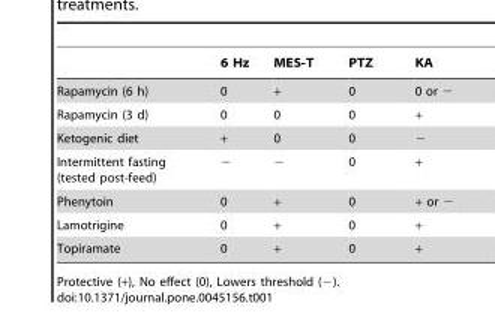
<table><thead><tr><td></td><td>6 Hz</td><td>MES-T</td><td>PTZ</td><td>KA</td></tr></thead><tbody><tr><td>Rapamycin (6 h)</td><td>0</td><td>+</td><td>0</td><td>0 or</td></tr><tr><td>Rapamycin (3 d)</td><td>0</td><td>0</td><td>0</td><td>+</td></tr><tr><td>Ketogenic diet</td><td>+</td><td>0</td><td>0</td><td>−</td></tr><tr><td>Intermittent fasting (tested post-feed)</td><td>−</td><td>−</td><td>0</td><td>+</td></tr><tr><td>Phenytoin</td><td>0</td><td>+</td><td>0</td><td>+ or</td></tr><tr><td>Lamotrigine</td><td>0</td><td>+</td><td>0</td><td>+</td></tr><tr><td>Topiramate</td><td>0</td><td>+</td><td>0</td><td>+</td></tr></tbody></table>